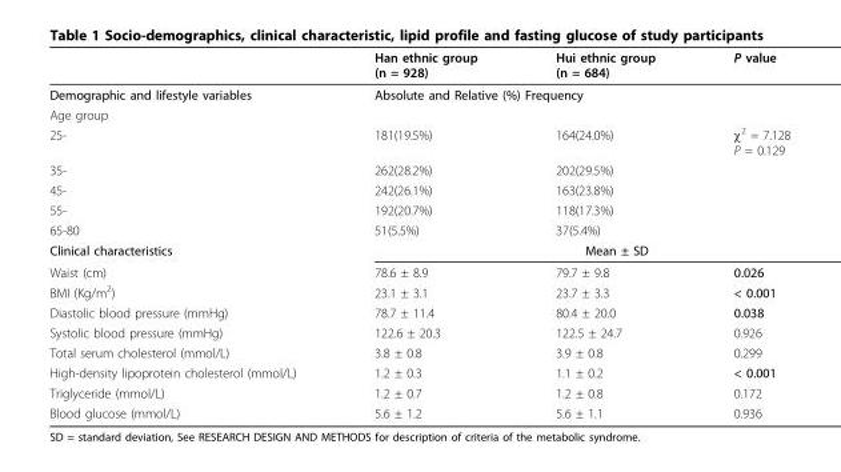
<table><thead><tr><td></td><td>Han ethnic group (n = 928)</td><td>Hui ethnic group (n = 684)</td><td>P value</td></tr></thead><tbody><tr><td>Demographic and lifestyle variables</td><td colspan="3">Absolute and Relative (%) Frequency</td></tr><tr><td colspan="4">Age group</td></tr><tr><td>25-</td><td>181(19.5%)</td><td>164(24.0%)</td><td>χ<sup>2</sup> = 7.128 P = 0.129</td></tr><tr><td>35-</td><td>262(28.2%)</td><td>202(29.5%)</td><td></td></tr><tr><td>45-</td><td>242(26.1%)</td><td>163(23.8%)</td><td></td></tr><tr><td>55-</td><td>192(20.7%)</td><td>118(17.3%)</td><td></td></tr><tr><td>65-80</td><td>51(5.5%)</td><td>37(5.4%)</td><td></td></tr><tr><td>Clinical characteristics</td><td colspan="3">Mean ± SD</td></tr><tr><td>Waist (cm)</td><td>78.6 ± 8.9</td><td>79.7 ± 9.8</td><td>0.026</td></tr><tr><td>BMI (Kg/m<sup>2</sup>)</td><td>23.1 ± 3.1</td><td>23.7 ± 3.3</td><td>&lt; 0.001</td></tr><tr><td>Diastolic blood pressure (mmHg)</td><td>78.7 ± 11.4</td><td>80.4 ± 20.0</td><td>0.038</td></tr><tr><td>Systolic blood pressure (mmHg)</td><td>122.6 ± 20.3</td><td>122.5 ± 24.7</td><td>0.926</td></tr><tr><td>Total serum cholesterol (mmol/L)</td><td>3.8 ± 0.8</td><td>3.9 ± 0.8</td><td>0.299</td></tr><tr><td>High-density lipoprotein cholesterol (mmol/L)</td><td>1.2 ± 0.3</td><td>1.1 ± 0.2</td><td>&lt; 0.001</td></tr><tr><td>Triglyceride (mmol/L)</td><td>1.2 ± 0.7</td><td>1.2 ± 0.8</td><td>0.172</td></tr><tr><td>Blood glucose (mmol/L)</td><td>5.6 ± 1.2</td><td>5.6 ± 1.1</td><td>0.936</td></tr></tbody></table>